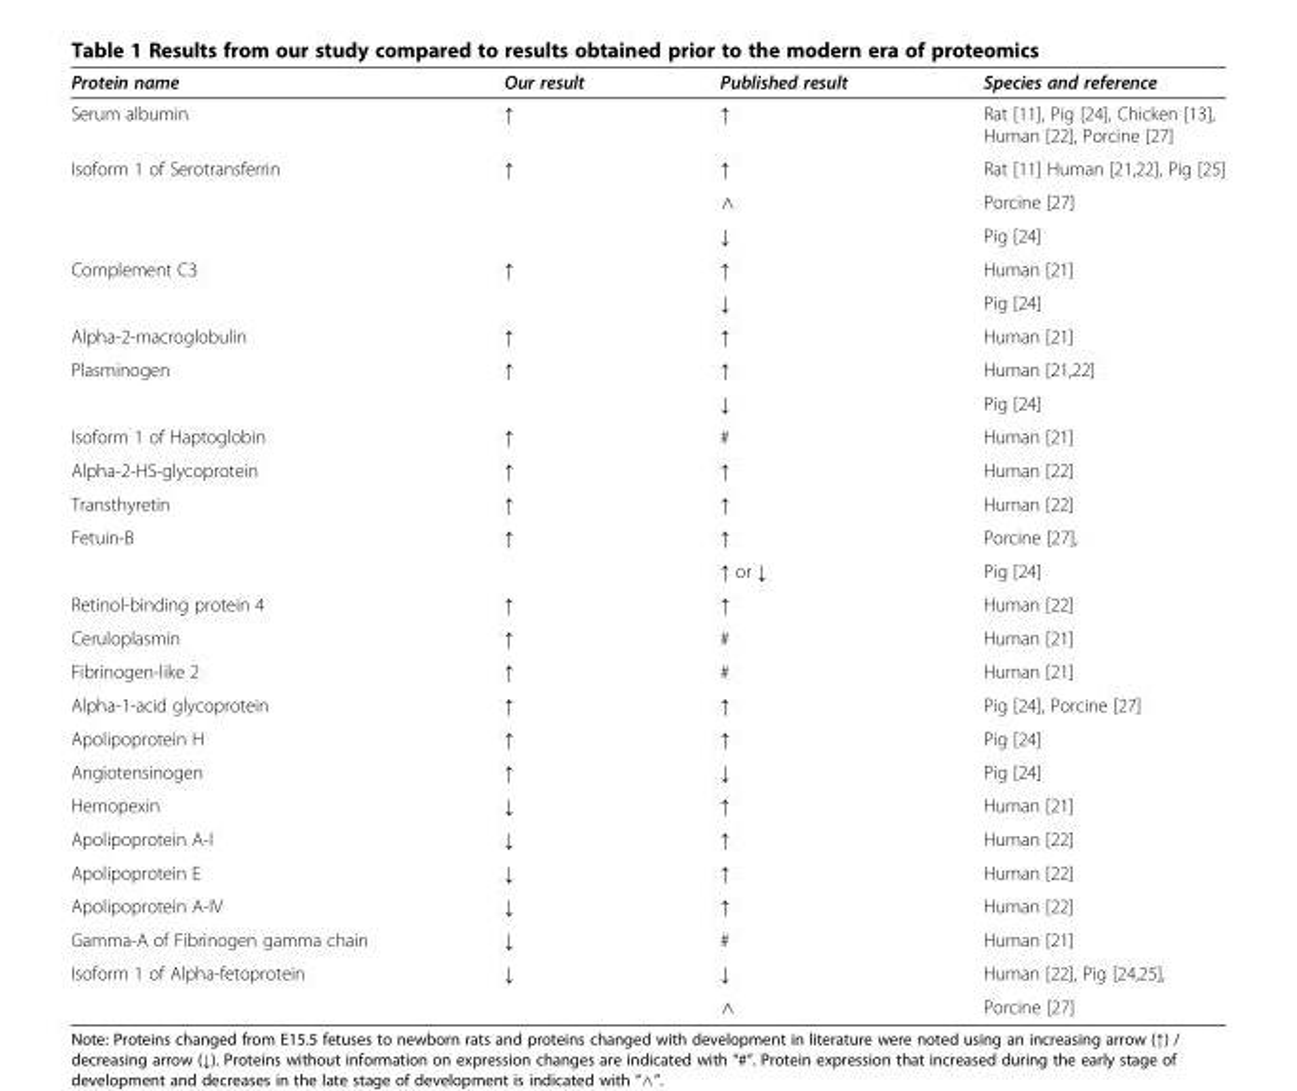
<table><thead><tr><td>Protein name</td><td>Our result</td><td>Published result</td><td>Species and reference</td></tr></thead><tbody><tr><td>Serum albumin</td><td>↑</td><td>↑</td><td>Rat [11], Pig [24], Chicken [13], Human [22], Porcine [27]</td></tr><tr><td rowspan="3">Isoform 1 of Serotransferrin</td><td>↑</td><td>↑</td><td>Rat [11] Human [21,22], Pig [25]</td></tr><tr><td></td><td>∧</td><td>Porcine [27]</td></tr><tr><td></td><td>↓</td><td>Pig [24]</td></tr><tr><td rowspan="2">Complement C3</td><td>↑</td><td>↑</td><td>Human [21]</td></tr><tr><td></td><td>↓</td><td>Pig [24]</td></tr><tr><td>Alpha-2-macroglobulin</td><td>↑</td><td>↑</td><td>Human [21]</td></tr><tr><td rowspan="2">Plasminogen</td><td>↑</td><td>↑</td><td>Human [21,22]</td></tr><tr><td></td><td>↓</td><td>Pig [24]</td></tr><tr><td>Isoform 1 of Haptoglobin</td><td>↑</td><td>#</td><td>Human [21]</td></tr><tr><td>Alpha-2-HS-glycoprotein</td><td>↑</td><td>↑</td><td>Human [22]</td></tr><tr><td>Transthyretin</td><td>↑</td><td>↑</td><td>Human [22]</td></tr><tr><td rowspan="2">Fetuin-B</td><td>↑</td><td>↑</td><td>Porcine [27],</td></tr><tr><td></td><td>↑ or ↓</td><td>Pig [24]</td></tr><tr><td>Retinol-binding protein 4</td><td>↑</td><td>↑</td><td>Human [22]</td></tr><tr><td>Ceruloplasmin</td><td>↑</td><td>#</td><td>Human [21]</td></tr><tr><td>Fibrinogen-like 2</td><td>↑</td><td>#</td><td>Human [21]</td></tr><tr><td>Alpha-1-acid glycoprotein</td><td>↑</td><td>↑</td><td>Pig [24], Porcine [27]</td></tr><tr><td>Apolipoprotein H</td><td>↑</td><td>↑</td><td>Pig [24]</td></tr><tr><td>Angiotensinogen</td><td>↑</td><td>↓</td><td>Pig [24]</td></tr><tr><td>Hemopexin</td><td>↓</td><td>↑</td><td>Human [21]</td></tr><tr><td>Apolipoprotein A-I</td><td>↓</td><td>↑</td><td>Human [22]</td></tr><tr><td>Apolipoprotein E</td><td>↓</td><td>↑</td><td>Human [22]</td></tr><tr><td>Apolipoprotein A-IV</td><td>↓</td><td>↑</td><td>Human [22]</td></tr><tr><td>Gamma-A of Fibrinogen gamma chain</td><td>↓</td><td>#</td><td>Human [21]</td></tr><tr><td rowspan="2">Isoform 1 of Alpha-fetoprotein</td><td>↓</td><td>↓</td><td>Human [22], Pig [24,25],</td></tr><tr><td></td><td>∧</td><td>Porcine [27]</td></tr></tbody></table>